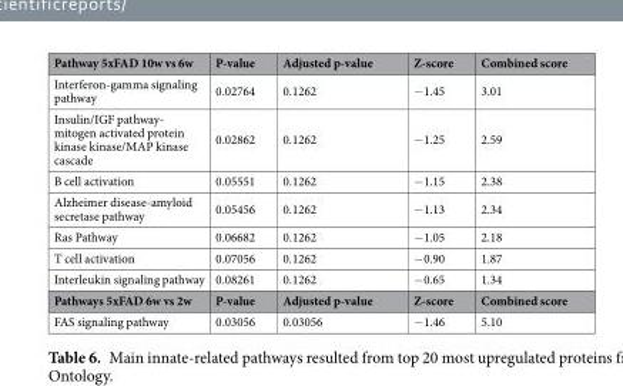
<table><thead><tr><td>Pathway 5xFAD 10w vs 6w</td><td>P-value</td><td>Adjusted p-value</td><td>Z-score</td><td>Combined score</td></tr></thead><tbody><tr><td>Interferon-gamma signaling pathway</td><td>0.02764</td><td>0.1262</td><td>−1.45</td><td>3.01</td></tr><tr><td>Insulin/IGF pathway- mitogen activated protein kinase kinase/MAP kinase cascade</td><td>0.02862</td><td>0.1262</td><td>−1.25</td><td>2.59</td></tr><tr><td>B cell activation</td><td>0.05551</td><td>0.1262</td><td>−1.15</td><td>2.38</td></tr><tr><td>Alzheimer disease-amyloid secretase pathway</td><td>0.05456</td><td>0.1262</td><td>−1.13</td><td>2.34</td></tr><tr><td>Ras Pathway</td><td>0.06682</td><td>0.1262</td><td>−1.05</td><td>2.18</td></tr><tr><td>T cell activation</td><td>0.07056</td><td>0.1262</td><td>−0.90</td><td>1.87</td></tr><tr><td>Interleukin signaling pathway</td><td>0.08261</td><td>0.1262</td><td>−0.65</td><td>1.34</td></tr><tr><td>Pathways 5xFAD 6w vs 2w</td><td>P-value</td><td>Adjusted p-value</td><td>Z-score</td><td>Combined score</td></tr><tr><td>FAS signaling pathway</td><td>0.03056</td><td>0.03056</td><td>−1.46</td><td>5.10</td></tr></tbody></table>